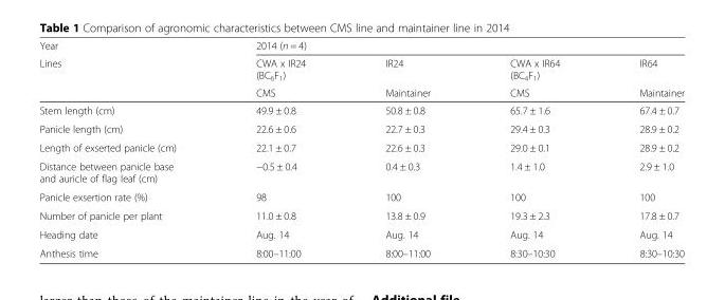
<table><thead><tr><td rowspan="3">Year Lines</td><td colspan="4">2014 (n = 4)</td></tr><tr><td rowspan="2">CWA x IR24 (BC<sub>6</sub>F<sub>1</sub>) CMS</td><td rowspan="2">IR24 Maintainer</td><td rowspan="2">CWA x IR64 (BC<sub>4</sub>F<sub>1</sub>) CMS</td><td rowspan="2">IR64 Maintainer</td></tr><tr></tr></thead><tbody><tr><td>Stem length (cm)</td><td>49.9 ± 0.8</td><td>50.8 ± 0.8</td><td>65.7 ± 1.6</td><td>67.4 ± 0.7</td></tr><tr><td>Panicle length (cm)</td><td>22.6 ± 0.6</td><td>22.7 ± 0.3</td><td>29.4 ± 0.3</td><td>28.9 ± 0.2</td></tr><tr><td>Length of exserted panicle (cm)</td><td>22.1 ± 0.7</td><td>22.6 ± 0.3</td><td>29.0 ± 0.1</td><td>28.9 ± 0.2</td></tr><tr><td>Distance between panicle base and auricle of flag leaf (cm)</td><td>−0.5 ± 0.4</td><td>0.4 ± 0.3</td><td>1.4 ± 1.0</td><td>2.9 ± 1.0</td></tr><tr><td>Panicle exsertion rate (%)</td><td>98</td><td>100</td><td>100</td><td>100</td></tr><tr><td>Number of panicle per plant</td><td>11.0 ± 0.8</td><td>13.8 ± 0.9</td><td>19.3 ± 2.3</td><td>17.8 ± 0.7</td></tr><tr><td>Heading date</td><td>Aug. 14</td><td>Aug. 14</td><td>Aug. 14</td><td>Aug. 14</td></tr><tr><td>Anthesis time</td><td>8:00–11:00</td><td>8:00–11:00</td><td>8:30–10:30</td><td>8:30–10:30</td></tr></tbody></table>